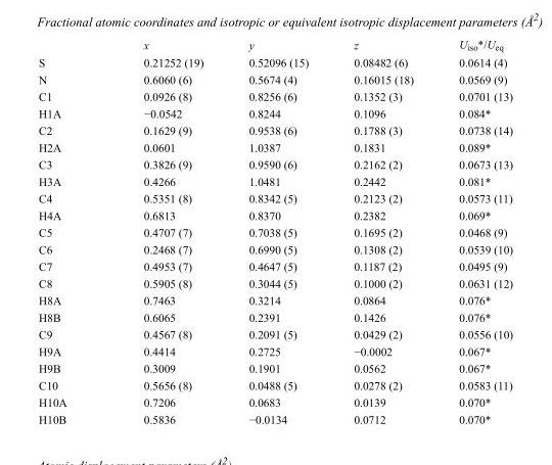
<table><thead><tr><td></td><td>x</td><td>y</td><td>z</td><td>U<sub>iso</sub>*/U<sub>eq</sub></td></tr></thead><tbody><tr><td>S</td><td>0.21252 (19)</td><td>0.52096 (15)</td><td>0.08482 (6)</td><td>0.0614 (4)</td></tr><tr><td>N</td><td>0.6060 (6)</td><td>0.5674 (4)</td><td>0.16015 (18)</td><td>0.0569 (9)</td></tr><tr><td>C1</td><td>0.0926 (8)</td><td>0.8256 (6)</td><td>0.1352 (3)</td><td>0.0701 (13)</td></tr><tr><td>H1A</td><td>−0.0542</td><td>0.8244</td><td>0.1096</td><td>0.084*</td></tr><tr><td>C2</td><td>0.1629 (9)</td><td>0.9538 (6)</td><td>0.1788 (3)</td><td>0.0738 (14)</td></tr><tr><td>H2A</td><td>0.0601</td><td>1.0387</td><td>0.1831</td><td>0.089*</td></tr><tr><td>C3</td><td>0.3826 (9)</td><td>0.9590 (6)</td><td>0.2162 (2)</td><td>0.0673 (13)</td></tr><tr><td>H3A</td><td>0.4266</td><td>1.0481</td><td>0.2442</td><td>0.081*</td></tr><tr><td>C4</td><td>0.5351 (8)</td><td>0.8342 (5)</td><td>0.2123 (2)</td><td>0.0573 (11)</td></tr><tr><td>H4A</td><td>0.6813</td><td>0.8370</td><td>0.2382</td><td>0.069*</td></tr><tr><td>C5</td><td>0.4707 (7)</td><td>0.7038 (5)</td><td>0.1695 (2)</td><td>0.0468 (9)</td></tr><tr><td>C6</td><td>0.2468 (7)</td><td>0.6990 (5)</td><td>0.1308 (2)</td><td>0.0539 (10)</td></tr><tr><td>C7</td><td>0.4953 (7)</td><td>0.4647 (5)</td><td>0.1187 (2)</td><td>0.0495 (9)</td></tr><tr><td>C8</td><td>0.5905 (8)</td><td>0.3044 (5)</td><td>0.1000 (2)</td><td>0.0631 (12)</td></tr><tr><td>H8A</td><td>0.7463</td><td>0.3214</td><td>0.0864</td><td>0.076*</td></tr><tr><td>H8B</td><td>0.6065</td><td>0.2391</td><td>0.1426</td><td>0.076*</td></tr><tr><td>C9</td><td>0.4567 (8)</td><td>0.2091 (5)</td><td>0.0429 (2)</td><td>0.0556 (10)</td></tr><tr><td>H9A</td><td>0.4414</td><td>0.2725</td><td>−0.0002</td><td>0.067*</td></tr><tr><td>H9B</td><td>0.3009</td><td>0.1901</td><td>0.0562</td><td>0.067*</td></tr><tr><td>C10</td><td>0.5656 (8)</td><td>0.0488 (5)</td><td>0.0278 (2)</td><td>0.0583 (11)</td></tr><tr><td>H10A</td><td>0.7206</td><td>0.0683</td><td>0.0139</td><td>0.070*</td></tr><tr><td>H10B</td><td>0.5836</td><td>−0.0134</td><td>0.0712</td><td>0.070*</td></tr></tbody></table>